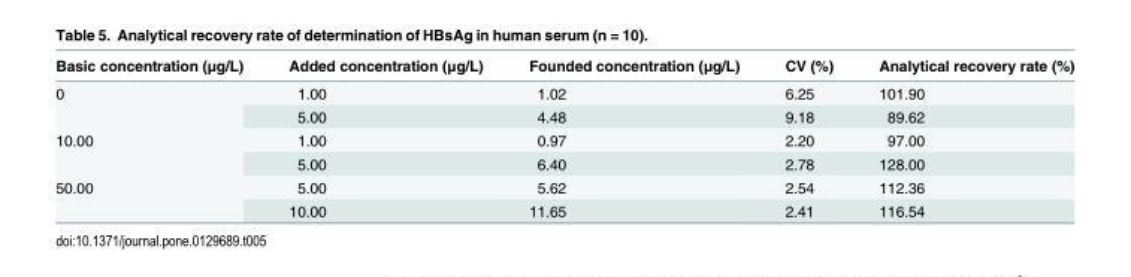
<table><thead><tr><td>Basic concentration (μg/L)</td><td>Added concentration (μg/L)</td><td>Founded concentration (μg/L)</td><td>CV (%)</td><td>Analytical recovery rate (%)</td></tr></thead><tbody><tr><td rowspan="2">0</td><td>1.00</td><td>1.02</td><td>6.25</td><td>101.90</td></tr><tr><td>5.00</td><td>4.48</td><td>9.18</td><td>89.62</td></tr><tr><td rowspan="2">10.00</td><td>1.00</td><td>0.97</td><td>2.20</td><td>97.00</td></tr><tr><td>5.00</td><td>6.40</td><td>2.78</td><td>128.00</td></tr><tr><td rowspan="2">50.00</td><td>5.00</td><td>5.62</td><td>2.54</td><td>112.36</td></tr><tr><td>10.00</td><td>11.65</td><td>2.41</td><td>116.54</td></tr></tbody></table>